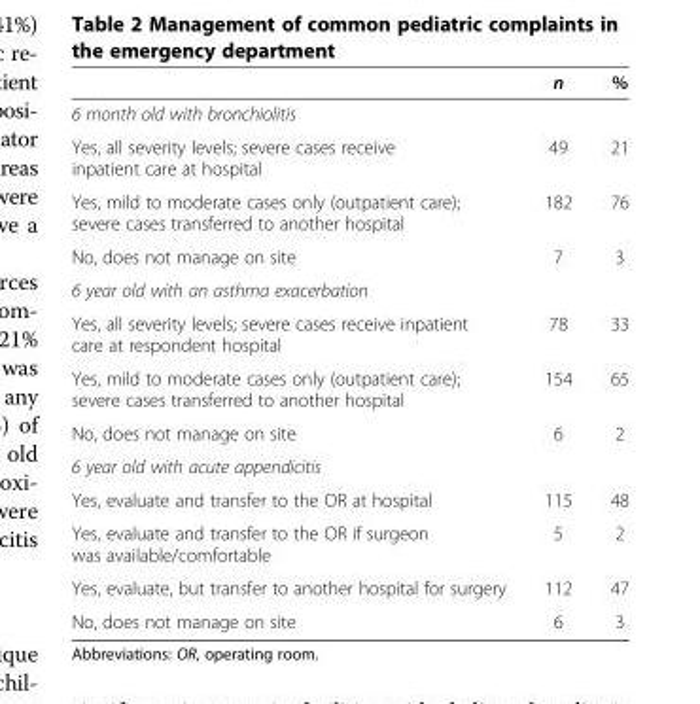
<table><thead><tr><td></td><td>n</td><td>%</td></tr></thead><tbody><tr><td colspan="3">6 month old with bronchiolitis</td></tr><tr><td>Yes, all severity levels; severe cases receive inpatient care at hospital</td><td>49</td><td>21</td></tr><tr><td>Yes, mild to moderate cases only (outpatient care); severe cases transferred to another hospital</td><td>182</td><td>76</td></tr><tr><td>No, does not manage on site</td><td>7</td><td>3</td></tr><tr><td colspan="3">6 year old with an asthma exacerbation</td></tr><tr><td>Yes, all severity levels; severe cases receive inpatient care at respondent hospital</td><td>78</td><td>33</td></tr><tr><td>Yes, mild to moderate cases only (outpatient care); severe cases transferred to another hospital</td><td>154</td><td>65</td></tr><tr><td>No, does not manage on site</td><td>6</td><td>2</td></tr><tr><td colspan="3">6 year old with acute appendicitis</td></tr><tr><td>Yes, evaluate and transfer to the OR at hospital</td><td>115</td><td>48</td></tr><tr><td>Yes, evaluate and transfer to the OR if surgeon was available/comfortable</td><td>5</td><td>2</td></tr><tr><td>Yes, evaluate, but transfer to another hospital for surgery</td><td>112</td><td>47</td></tr><tr><td>No, does not manage on site</td><td>6</td><td>3</td></tr></tbody></table>